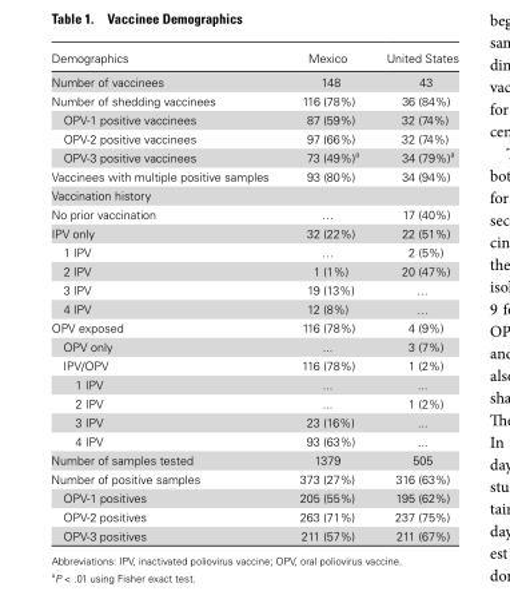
<table><thead><tr><td>Demographics</td><td>Mexico</td><td>United States</td></tr></thead><tbody><tr><td>Number of vaccinees</td><td>148</td><td>43</td></tr><tr><td>Number of shedding vaccinees</td><td>116 (78%)</td><td>36 (84%)</td></tr><tr><td>OPV-1 positive vaccinees</td><td>87 (59%)</td><td>32 (74%)</td></tr><tr><td>OPV-2 positive vaccinees</td><td>97 (66%)</td><td>32 (74%)</td></tr><tr><td>OPV-3 positive vaccinees</td><td>73 (49%)<sup>a</sup></td><td>34 (79%)<sup>a</sup></td></tr><tr><td>Vaccinees with multiple positive samples</td><td>93 (80%)</td><td>34 (94%)</td></tr><tr><td colspan="3">Vaccination history</td></tr><tr><td>No prior vaccination</td><td>…</td><td>17 (40%)</td></tr><tr><td>IPV only</td><td>32 (22%)</td><td>22 (51%)</td></tr><tr><td>1 IPV</td><td>…</td><td>2 (5%)</td></tr><tr><td>2 IPV</td><td>1 (1%)</td><td>20 (47%)</td></tr><tr><td>3 IPV</td><td>19 (13%)</td><td>…</td></tr><tr><td>4 IPV</td><td>12 (8%)</td><td>…</td></tr><tr><td>OPV exposed</td><td>116 (78%)</td><td>4 (9%)</td></tr><tr><td>OPV only</td><td>...</td><td>3 (7%)</td></tr><tr><td>IPV/OPV</td><td>116 (78%)</td><td>1 (2%)</td></tr><tr><td>1 IPV</td><td>...</td><td>...</td></tr><tr><td>2 IPV</td><td>...</td><td>1 (2%)</td></tr><tr><td>3 IPV</td><td>23 (16%)</td><td>...</td></tr><tr><td>4 IPV</td><td>93 (63%)</td><td>...</td></tr><tr><td>Number of samples tested</td><td>1379</td><td>505</td></tr><tr><td>Number of positive samples</td><td>373 (27%)</td><td>316 (63%)</td></tr><tr><td>OPV-1 positives</td><td>205 (55%)</td><td>195 (62%)</td></tr><tr><td>OPV-2 positives</td><td>263 (71%)</td><td>237 (75%)</td></tr><tr><td>OPV-3 positives</td><td>211 (57%)</td><td>211 (67%)</td></tr></tbody></table>